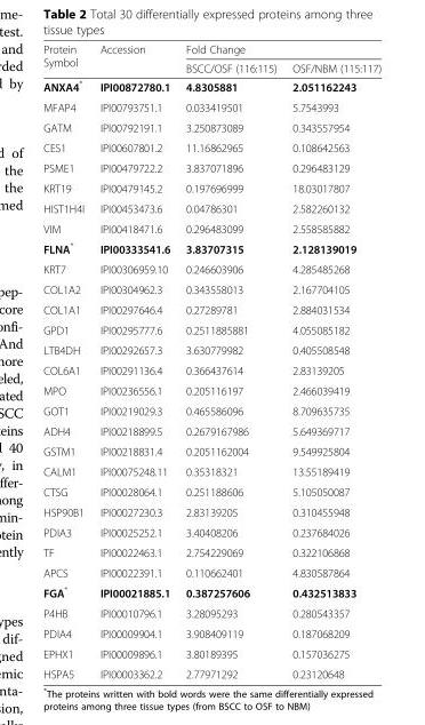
<table><thead><tr><td rowspan="2">Protein Symbol</td><td rowspan="2">Accession</td><td colspan="2">Fold Change</td></tr><tr><td>BSCC/OSF (116:115)</td><td>OSF/NBM (115:117)</td></tr></thead><tbody><tr><td>ANXA4*</td><td>IPI00872780.1</td><td>4.8305881</td><td>2.051162243</td></tr><tr><td>MFAP4</td><td>IPI00793751.1</td><td>0.033419501</td><td>5.7543993</td></tr><tr><td>GATM</td><td>IPI00792191.1</td><td>3.250873089</td><td>0.343557954</td></tr><tr><td>CES1</td><td>IPI00607801.2</td><td>11.16862965</td><td>0.108642563</td></tr><tr><td>PSME1</td><td>IPI00479722.2</td><td>3.837071896</td><td>0.296483129</td></tr><tr><td>KRT19</td><td>IPI00479145.2</td><td>0.197696999</td><td>18.03017807</td></tr><tr><td>HIST1H4I</td><td>IPI00453473.6</td><td>0.04786301</td><td>2.582260132</td></tr><tr><td>VIM</td><td>IPI00418471.6</td><td>0.296483099</td><td>2.558585882</td></tr><tr><td>FLNA*</td><td>IPI00333541.6</td><td>3.83707315</td><td>2.128139019</td></tr><tr><td>KRT7</td><td>IPI00306959.10</td><td>0.246603906</td><td>4.285485268</td></tr><tr><td>COL1A2</td><td>IPI00304962.3</td><td>0.343558013</td><td>2.167704105</td></tr><tr><td>COL1A1</td><td>IPI00297646.4</td><td>0.27289781</td><td>2.884031534</td></tr><tr><td>GPD1</td><td>IPI00295777.6</td><td>0.2511885881</td><td>4.055085182</td></tr><tr><td>LTB4DH</td><td>IPI00292657.3</td><td>3.630779982</td><td>0.405508548</td></tr><tr><td>COL6A1</td><td>IPI00291136.4</td><td>0.366437614</td><td>2.83139205</td></tr><tr><td>MPO</td><td>IPI00236556.1</td><td>0.205116197</td><td>2.466039419</td></tr><tr><td>GOT1</td><td>IPI00219029.3</td><td>0.465586096</td><td>8.709635735</td></tr><tr><td>ADH4</td><td>IPI00218899.5</td><td>0.2679167986</td><td>5.649369717</td></tr><tr><td>GSTM1</td><td>IPI00218831.4</td><td>0.2051162004</td><td>9.549925804</td></tr><tr><td>CALM1</td><td>IPI00075248.11</td><td>0.35318321</td><td>13.55189419</td></tr><tr><td>CTSG</td><td>IPI00028064.1</td><td>0.251188606</td><td>5.105050087</td></tr><tr><td>HSP90B1</td><td>IPI00027230.3</td><td>2.83139205</td><td>0.310455948</td></tr><tr><td>PDIA3</td><td>IPI00025252.1</td><td>3.40408206</td><td>0.237684026</td></tr><tr><td>TF</td><td>IPI00022463.1</td><td>2.754229069</td><td>0.322106868</td></tr><tr><td>APCS</td><td>IPI00022391.1</td><td>0.110662401</td><td>4.830587864</td></tr><tr><td>FGA*</td><td>IPI00021885.1</td><td>0.387257606</td><td>0.432513833</td></tr><tr><td>P4HB</td><td>IPI00010796.1</td><td>3.28095293</td><td>0.280543357</td></tr><tr><td>PDIA4</td><td>IPI00009904.1</td><td>3.908409119</td><td>0.187068209</td></tr><tr><td>EPHX1</td><td>IPI00009896.1</td><td>3.80189395</td><td>0.157036275</td></tr><tr><td>HSPA5</td><td>IPI00003362.2</td><td>2.77971292</td><td>0.23120648</td></tr></tbody></table>